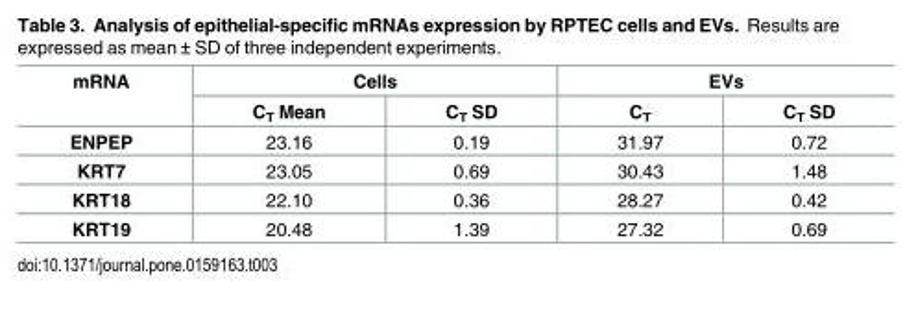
<table><thead><tr><td rowspan="2">mRNA</td><td colspan="2">Cells</td><td colspan="2">EVs</td></tr><tr><td>C<sub>T</sub> Mean</td><td>C<sub>T</sub> SD</td><td>C<sub>T</sub></td><td>C<sub>T</sub> SD</td></tr></thead><tbody><tr><td>ENPEP</td><td>23.16</td><td>0.19</td><td>31.97</td><td>0.72</td></tr><tr><td>KRT7</td><td>23.05</td><td>0.69</td><td>30.43</td><td>1.48</td></tr><tr><td>KRT18</td><td>22.10</td><td>0.36</td><td>28.27</td><td>0.42</td></tr><tr><td>KRT19</td><td>20.48</td><td>1.39</td><td>27.32</td><td>0.69</td></tr></tbody></table>